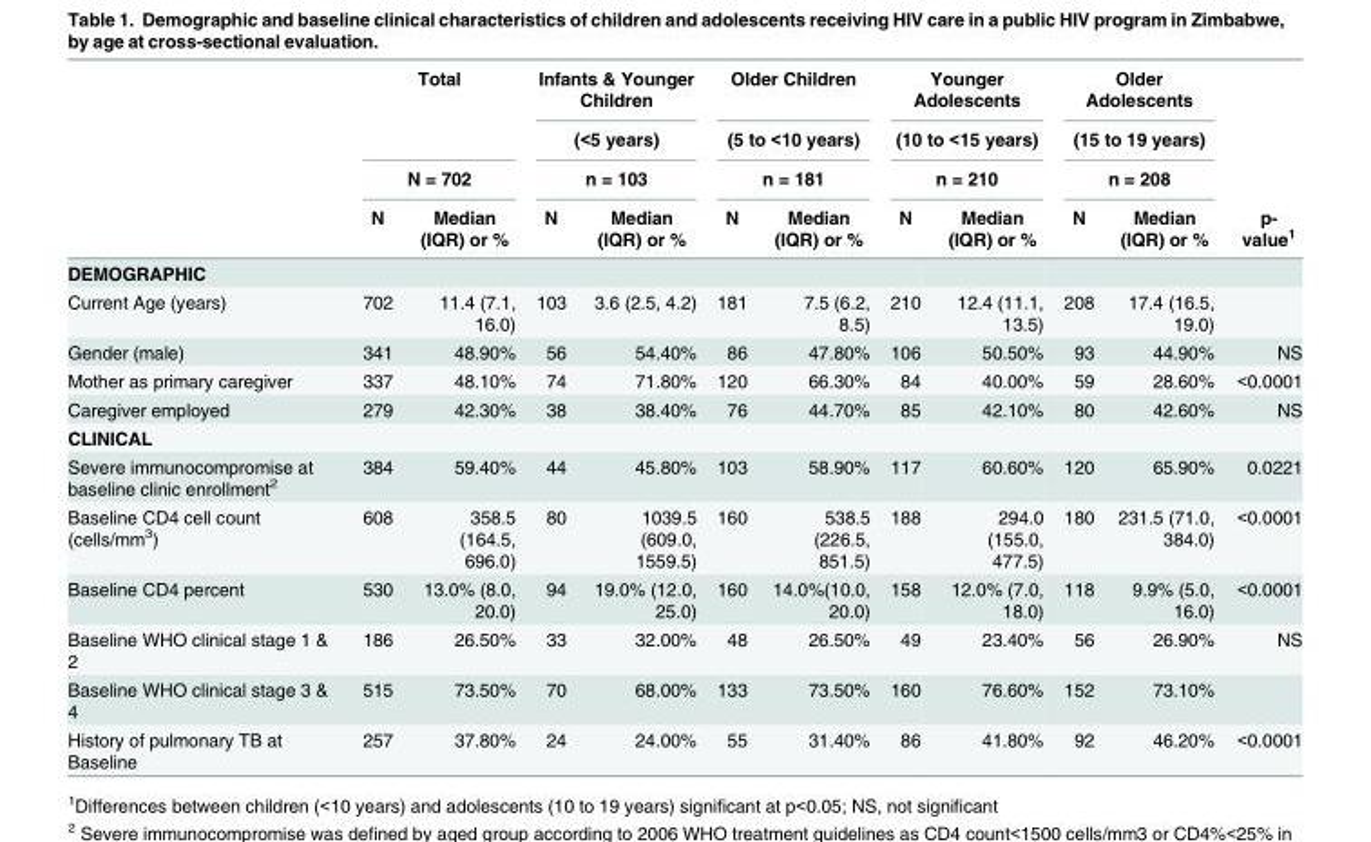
<table><thead><tr><td rowspan="4"></td><td rowspan="3" colspan="2">Total N = 702</td><td rowspan="3" colspan="2">Infants &amp; Younger Children (&lt;5 years) n = 103</td><td rowspan="3" colspan="2">Older Children (5 to &lt;10 years) n = 181</td><td rowspan="3" colspan="2">Younger Adolescents (10 to &lt;15 years) n = 210</td><td rowspan="3" colspan="2">Older Adolescents (15 to 19 years) n = 208</td><td rowspan="4">p- value<sup>1</sup></td></tr><tr></tr><tr></tr><tr><td>N</td><td>Median (IQR) or %</td><td>N</td><td>Median (IQR) or %</td><td>N</td><td>Median (IQR) or %</td><td>N</td><td>Median (IQR) or %</td><td>N</td><td>Median (IQR) or %</td></tr></thead><tbody><tr><td colspan="12">DEMOGRAPHIC</td></tr><tr><td>Current Age (years)</td><td>702</td><td>11.4 (7.1, 16.0)</td><td>103</td><td>3.6 (2.5, 4.2)</td><td>181</td><td>7.5 (6.2, 8.5)</td><td>210</td><td>12.4 (11.1, 13.5)</td><td>208</td><td>17.4 (16.5, 19.0)</td><td></td></tr><tr><td>Gender (male)</td><td>341</td><td>48.90%</td><td>56</td><td>54.40%</td><td>86</td><td>47.80%</td><td>106</td><td>50.50%</td><td>93</td><td>44.90%</td><td>NS</td></tr><tr><td>Mother as primary caregiver</td><td>337</td><td>48.10%</td><td>74</td><td>71.80%</td><td>120</td><td>66.30%</td><td>84</td><td>40.00%</td><td>59</td><td>28.60%</td><td>&lt;0.0001</td></tr><tr><td>Caregiver employed</td><td>279</td><td>42.30%</td><td>38</td><td>38.40%</td><td>76</td><td>44.70%</td><td>85</td><td>42.10%</td><td>80</td><td>42.60%</td><td>NS</td></tr><tr><td colspan="12">CLINICAL</td></tr><tr><td>Severe immunocompromise at baseline clinic enrollment<sup>2</sup></td><td>384</td><td>59.40%</td><td>44</td><td>45.80%</td><td>103</td><td>58.90%</td><td>117</td><td>60.60%</td><td>120</td><td>65.90%</td><td>0.0221</td></tr><tr><td>Baseline CD4 cell count (cells/mm<sup>3</sup>)</td><td>608</td><td>358.5 (164.5, 696.0)</td><td>80</td><td>1039.5 (609.0, 1559.5)</td><td>160</td><td>538.5 (226.5, 851.5)</td><td>188</td><td>294.0 (155.0, 477.5)</td><td>180</td><td>231.5 (71.0, 384.0)</td><td>&lt;0.0001</td></tr><tr><td>Baseline CD4 percent</td><td>530</td><td>13.0% (8.0, 20.0)</td><td>94</td><td>19.0% (12.0, 25.0)</td><td>160</td><td>14.0%(10.0, 20.0)</td><td>158</td><td>12.0% (7.0, 18.0)</td><td>118</td><td>9.9% (5.0, 16.0)</td><td>&lt;0.0001</td></tr><tr><td>Baseline WHO clinical stage 1 &amp; 2</td><td>186</td><td>26.50%</td><td>33</td><td>32.00%</td><td>48</td><td>26.50%</td><td>49</td><td>23.40%</td><td>56</td><td>26.90%</td><td>NS</td></tr><tr><td>Baseline WHO clinical stage 3 &amp; 4</td><td>515</td><td>73.50%</td><td>70</td><td>68.00%</td><td>133</td><td>73.50%</td><td>160</td><td>76.60%</td><td>152</td><td>73.10%</td><td></td></tr><tr><td>History of pulmonary TB at Baseline</td><td>257</td><td>37.80%</td><td>24</td><td>24.00%</td><td>55</td><td>31.40%</td><td>86</td><td>41.80%</td><td>92</td><td>46.20%</td><td>&lt;0.0001</td></tr></tbody></table>